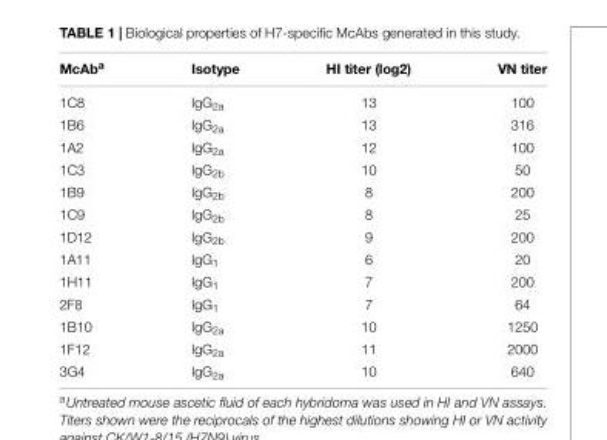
<table><thead><tr><td>McAb<sup>a</sup></td><td>Isotype</td><td>HI titer (log2)</td><td>VN titer</td></tr></thead><tbody><tr><td>1C8</td><td>IgG<sub>2a</sub></td><td>13</td><td>100</td></tr><tr><td>1B6</td><td>IgG<sub>2a</sub></td><td>13</td><td>316</td></tr><tr><td>1A2</td><td>IgG<sub>2a</sub></td><td>12</td><td>100</td></tr><tr><td>1C3</td><td>IgG<sub>2b</sub></td><td>10</td><td>50</td></tr><tr><td>1B9</td><td>IgG<sub>2b</sub></td><td>8</td><td>200</td></tr><tr><td>1C9</td><td>IgG<sub>2b</sub></td><td>8</td><td>25</td></tr><tr><td>1D12</td><td>IgG<sub>2b</sub></td><td>9</td><td>200</td></tr><tr><td>1A11</td><td>IgG<sub>1</sub></td><td>6</td><td>20</td></tr><tr><td>1H11</td><td>IgG<sub>1</sub></td><td>7</td><td>200</td></tr><tr><td>2F8</td><td>IgG<sub>1</sub></td><td>7</td><td>64</td></tr><tr><td>1B10</td><td>IgG<sub>2a</sub></td><td>10</td><td>1250</td></tr><tr><td>1F12</td><td>IgG<sub>2a</sub></td><td>11</td><td>2000</td></tr><tr><td>3G4</td><td>IgG<sub>2a</sub></td><td>10</td><td>640</td></tr></tbody></table>